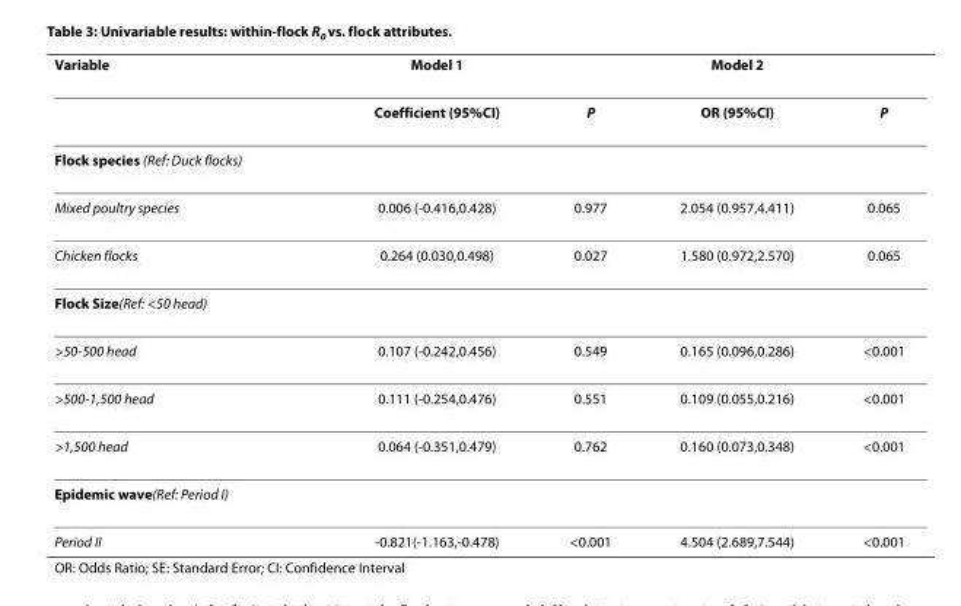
<table><thead><tr><td>Variable</td><td>Model 1</td><td></td><td>Model 2</td><td></td></tr></thead><tbody><tr><td></td><td>Coefficient (95%CI)</td><td>P</td><td>OR (95%CI)</td><td>P</td></tr><tr><td colspan="5">Flock species (Ref: Duck flocks)</td></tr><tr><td>Mixed poultry species</td><td>0.006 (-0.416,0.428)</td><td>0.977</td><td>2.054 (0.957,4.411)</td><td>0.065</td></tr><tr><td>Chicken flocks</td><td>0.264 (0.030,0.498)</td><td>0.027</td><td>1.580 (0.972,2.570)</td><td>0.065</td></tr><tr><td colspan="5">Flock Size(Ref: &lt;50 head)</td></tr><tr><td>&gt;50-500 head</td><td>0.107 (-0.242,0.456)</td><td>0.549</td><td>0.165 (0.096,0.286)</td><td>&lt;0.001</td></tr><tr><td>&gt;500-1,500 head</td><td>0.111 (-0.254,0.476)</td><td>0.551</td><td>0.109 (0.055,0.216)</td><td>&lt;0.001</td></tr><tr><td>&gt;1,500 head</td><td>0.064 (-0.351,0.479)</td><td>0.762</td><td>0.160 (0.073,0.348)</td><td>&lt;0.001</td></tr><tr><td colspan="5">Epidemic wave(Ref: Period I)</td></tr><tr><td>Period II</td><td>-0.821(-1.163,-0.478)</td><td>&lt;0.001</td><td>4.504 (2.689,7.544)</td><td>&lt;0.001</td></tr></tbody></table>